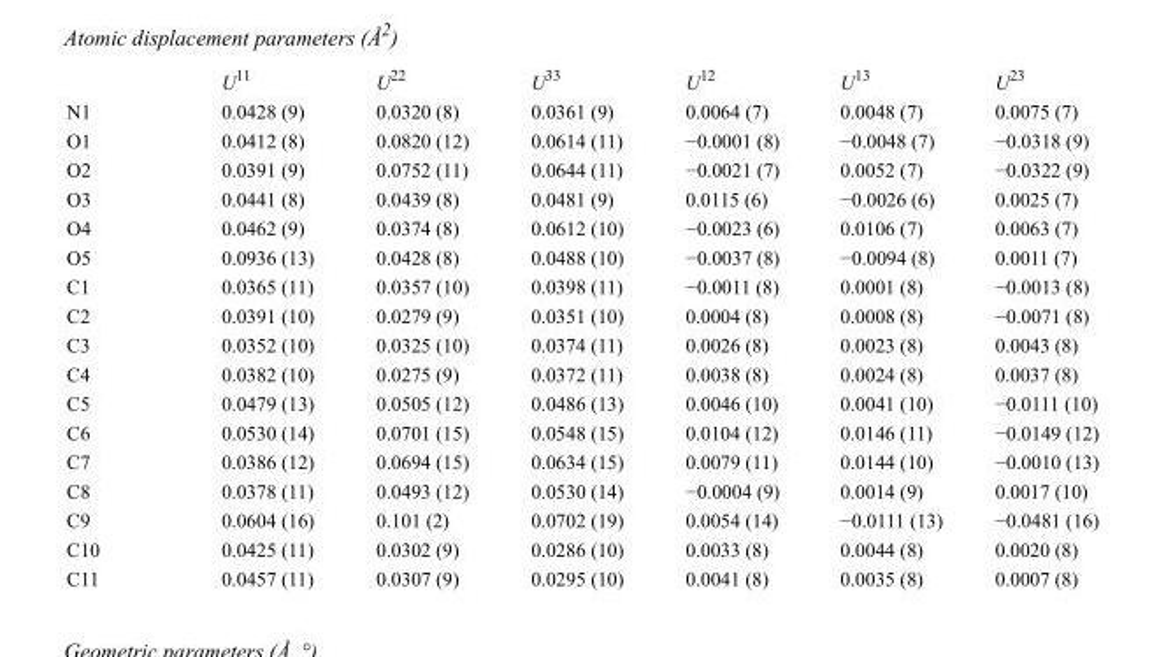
<table><thead><tr><td></td><td>U<sup>11</sup></td><td>U<sup>22</sup></td><td>U<sup>33</sup></td><td>U<sup>12</sup></td><td>U<sup>13</sup></td><td>U<sup>23</sup></td></tr></thead><tbody><tr><td>N1</td><td>0.0428 (9)</td><td>0.0320 (8)</td><td>0.0361 (9)</td><td>0.0064 (7)</td><td>0.0048 (7)</td><td>0.0075 (7)</td></tr><tr><td>O1</td><td>0.0412 (8)</td><td>0.0820 (12)</td><td>0.0614 (11)</td><td>−0.0001 (8)</td><td>−0.0048 (7)</td><td>−0.0318 (9)</td></tr><tr><td>O2</td><td>0.0391 (9)</td><td>0.0752 (11)</td><td>0.0644 (11)</td><td>−0.0021 (7)</td><td>0.0052 (7)</td><td>−0.0322 (9)</td></tr><tr><td>O3</td><td>0.0441 (8)</td><td>0.0439 (8)</td><td>0.0481 (9)</td><td>0.0115 (6)</td><td>−0.0026 (6)</td><td>0.0025 (7)</td></tr><tr><td>O4</td><td>0.0462 (9)</td><td>0.0374 (8)</td><td>0.0612 (10)</td><td>−0.0023 (6)</td><td>0.0106 (7)</td><td>0.0063 (7)</td></tr><tr><td>O5</td><td>0.0936 (13)</td><td>0.0428 (8)</td><td>0.0488 (10)</td><td>−0.0037 (8)</td><td>−0.0094 (8)</td><td>0.0011 (7)</td></tr><tr><td>C1</td><td>0.0365 (11)</td><td>0.0357 (10)</td><td>0.0398 (11)</td><td>−0.0011 (8)</td><td>0.0001 (8)</td><td>−0.0013 (8)</td></tr><tr><td>C2</td><td>0.0391 (10)</td><td>0.0279 (9)</td><td>0.0351 (10)</td><td>0.0004 (8)</td><td>0.0008 (8)</td><td>−0.0071 (8)</td></tr><tr><td>C3</td><td>0.0352 (10)</td><td>0.0325 (10)</td><td>0.0374 (11)</td><td>0.0026 (8)</td><td>0.0023 (8)</td><td>0.0043 (8)</td></tr><tr><td>C4</td><td>0.0382 (10)</td><td>0.0275 (9)</td><td>0.0372 (11)</td><td>0.0038 (8)</td><td>0.0024 (8)</td><td>0.0037 (8)</td></tr><tr><td>C5</td><td>0.0479 (13)</td><td>0.0505 (12)</td><td>0.0486 (13)</td><td>0.0046 (10)</td><td>0.0041 (10)</td><td>−0.0111 (10)</td></tr><tr><td>C6</td><td>0.0530 (14)</td><td>0.0701 (15)</td><td>0.0548 (15)</td><td>0.0104 (12)</td><td>0.0146 (11)</td><td>−0.0149 (12)</td></tr><tr><td>C7</td><td>0.0386 (12)</td><td>0.0694 (15)</td><td>0.0634 (15)</td><td>0.0079 (11)</td><td>0.0144 (10)</td><td>−0.0010 (13)</td></tr><tr><td>C8</td><td>0.0378 (11)</td><td>0.0493 (12)</td><td>0.0530 (14)</td><td>−0.0004 (9)</td><td>0.0014 (9)</td><td>0.0017 (10)</td></tr><tr><td>C9</td><td>0.0604 (16)</td><td>0.101 (2)</td><td>0.0702 (19)</td><td>0.0054 (14)</td><td>−0.0111 (13)</td><td>−0.0481 (16)</td></tr><tr><td>C10</td><td>0.0425 (11)</td><td>0.0302 (9)</td><td>0.0286 (10)</td><td>0.0033 (8)</td><td>0.0044 (8)</td><td>0.0020 (8)</td></tr><tr><td>C11</td><td>0.0457 (11)</td><td>0.0307 (9)</td><td>0.0295 (10)</td><td>0.0041 (8)</td><td>0.0035 (8)</td><td>0.0007 (8)</td></tr></tbody></table>